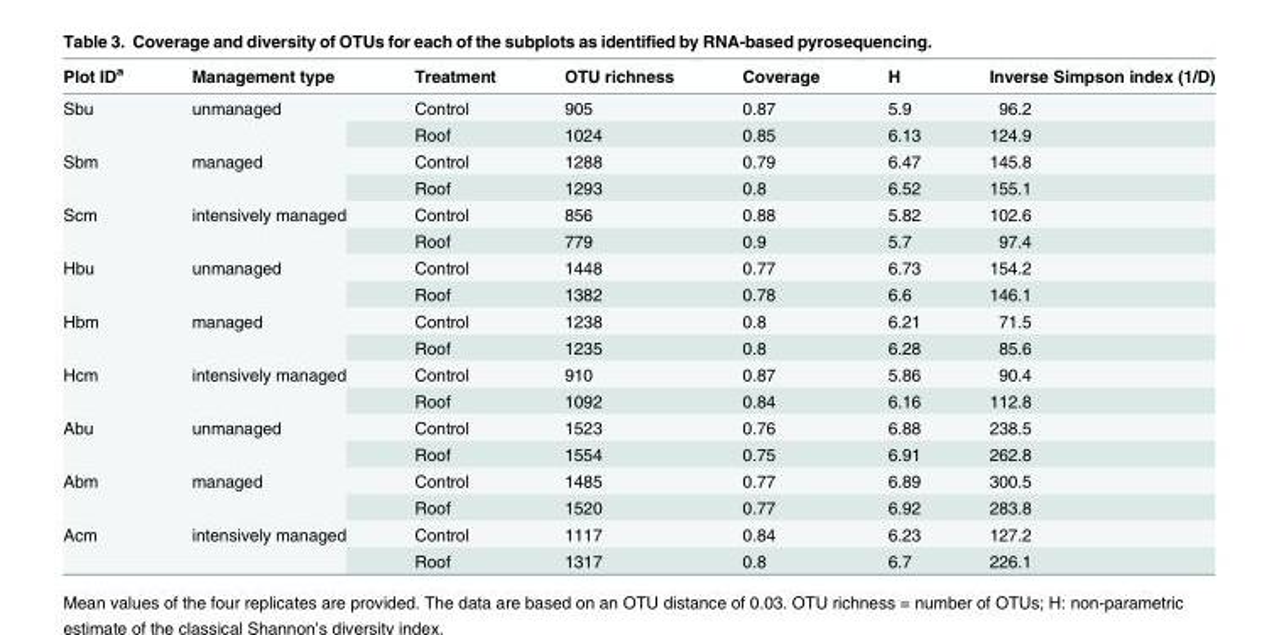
<table><thead><tr><td>Plot ID<sup>a</sup></td><td>Management type</td><td>Treatment</td><td>OTU richness</td><td>Coverage</td><td>H</td><td>Inverse Simpson index (1/D)</td></tr></thead><tbody><tr><td rowspan="2">Sbu</td><td rowspan="2">unmanaged</td><td>Control</td><td>905</td><td>0.87</td><td>5.9</td><td>96.2</td></tr><tr><td>Roof</td><td>1024</td><td>0.85</td><td>6.13</td><td>124.9</td></tr><tr><td rowspan="2">Sbm</td><td rowspan="2">managed</td><td>Control</td><td>1288</td><td>0.79</td><td>6.47</td><td>145.8</td></tr><tr><td>Roof</td><td>1293</td><td>0.8</td><td>6.52</td><td>155.1</td></tr><tr><td rowspan="2">Scm</td><td rowspan="2">intensively managed</td><td>Control</td><td>856</td><td>0.88</td><td>5.82</td><td>102.6</td></tr><tr><td>Roof</td><td>779</td><td>0.9</td><td>5.7</td><td>97.4</td></tr><tr><td rowspan="2">Hbu</td><td rowspan="2">unmanaged</td><td>Control</td><td>1448</td><td>0.77</td><td>6.73</td><td>154.2</td></tr><tr><td>Roof</td><td>1382</td><td>0.78</td><td>6.6</td><td>146.1</td></tr><tr><td rowspan="2">Hbm</td><td rowspan="2">managed</td><td>Control</td><td>1238</td><td>0.8</td><td>6.21</td><td>71.5</td></tr><tr><td>Roof</td><td>1235</td><td>0.8</td><td>6.28</td><td>85.6</td></tr><tr><td rowspan="2">Hcm</td><td rowspan="2">intensively managed</td><td>Control</td><td>910</td><td>0.87</td><td>5.86</td><td>90.4</td></tr><tr><td>Roof</td><td>1092</td><td>0.84</td><td>6.16</td><td>112.8</td></tr><tr><td rowspan="2">Abu</td><td rowspan="2">unmanaged</td><td>Control</td><td>1523</td><td>0.76</td><td>6.88</td><td>238.5</td></tr><tr><td>Roof</td><td>1554</td><td>0.75</td><td>6.91</td><td>262.8</td></tr><tr><td rowspan="2">Abm</td><td rowspan="2">managed</td><td>Control</td><td>1485</td><td>0.77</td><td>6.89</td><td>300.5</td></tr><tr><td>Roof</td><td>1520</td><td>0.77</td><td>6.92</td><td>283.8</td></tr><tr><td rowspan="2">Acm</td><td rowspan="2">intensively managed</td><td>Control</td><td>1117</td><td>0.84</td><td>6.23</td><td>127.2</td></tr><tr><td>Roof</td><td>1317</td><td>0.8</td><td>6.7</td><td>226.1</td></tr></tbody></table>